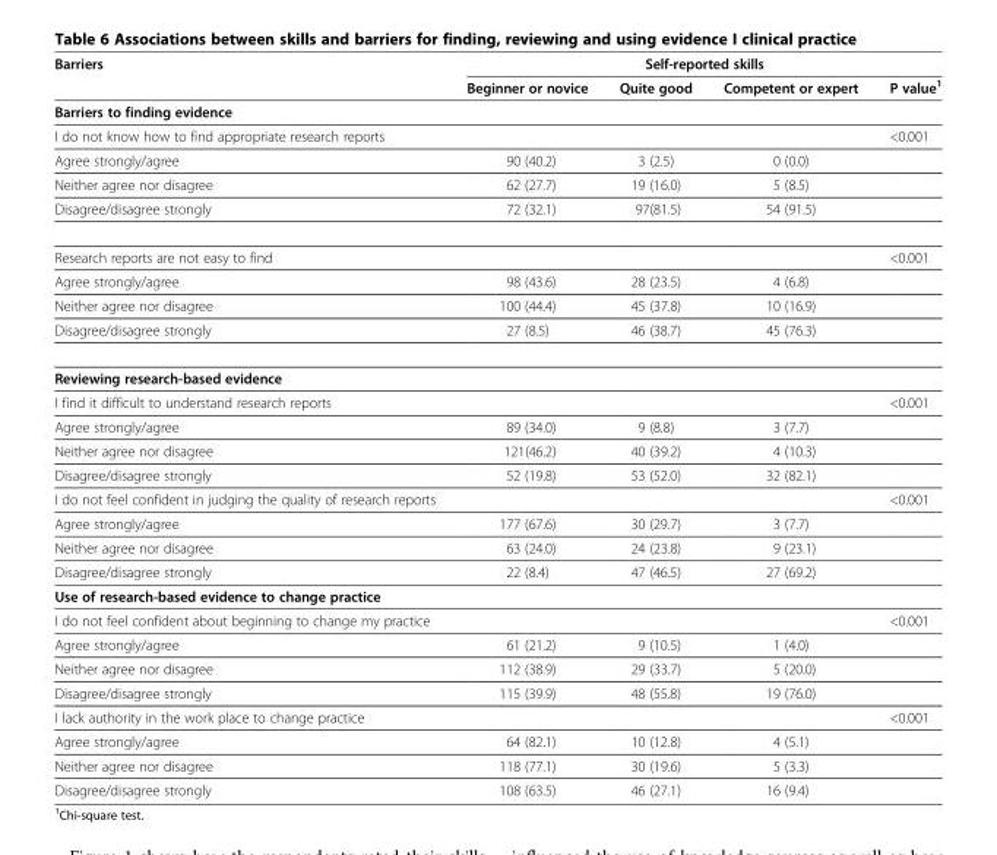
<table><thead><tr><td rowspan="2">Barriers</td><td colspan="4">Self-reported skills</td></tr><tr><td>Beginner or novice</td><td>Quite good</td><td>Competent or expert</td><td>P value<sup>1</sup></td></tr></thead><tbody><tr><td colspan="5">Barriers to finding evidence</td></tr><tr><td>I do not know how to find appropriate research reports</td><td></td><td></td><td></td><td>&lt;0.001</td></tr><tr><td>Agree strongly/agree</td><td>90 (40.2)</td><td>3 (2.5)</td><td>0 (0.0)</td><td></td></tr><tr><td>Neither agree nor disagree</td><td>62 (27.7)</td><td>19 (16.0)</td><td>5 (8.5)</td><td></td></tr><tr><td>Disagree/disagree strongly</td><td>72 (32.1)</td><td>97(81.5)</td><td>54 (91.5)</td><td></td></tr><tr><td>Research reports are not easy to find</td><td></td><td></td><td></td><td>&lt;0.001</td></tr><tr><td>Agree strongly/agree</td><td>98 (43.6)</td><td>28 (23.5)</td><td>4 (6.8)</td><td></td></tr><tr><td>Neither agree nor disagree</td><td>100 (44.4)</td><td>45 (37.8)</td><td>10 (16.9)</td><td></td></tr><tr><td>Disagree/disagree strongly</td><td>27 (8.5)</td><td>46 (38.7)</td><td>45 (76.3)</td><td></td></tr><tr><td colspan="5">Reviewing research-based evidence</td></tr><tr><td>I find it difficult to understand research reports</td><td></td><td></td><td></td><td>&lt;0.001</td></tr><tr><td>Agree strongly/agree</td><td>89 (34.0)</td><td>9 (8.8)</td><td>3 (7.7)</td><td></td></tr><tr><td>Neither agree nor disagree</td><td>121(46.2)</td><td>40 (39.2)</td><td>4 (10.3)</td><td></td></tr><tr><td>Disagree/disagree strongly</td><td>52 (19.8)</td><td>53 (52.0)</td><td>32 (82.1)</td><td></td></tr><tr><td>I do not feel confident in judging the quality of research reports</td><td></td><td></td><td></td><td>&lt;0.001</td></tr><tr><td>Agree strongly/agree</td><td>177 (67.6)</td><td>30 (29.7)</td><td>3 (7.7)</td><td></td></tr><tr><td>Neither agree nor disagree</td><td>63 (24.0)</td><td>24 (23.8)</td><td>9 (23.1)</td><td></td></tr><tr><td>Disagree/disagree strongly</td><td>22 (8.4)</td><td>47 (46.5)</td><td>27 (69.2)</td><td></td></tr><tr><td colspan="5">Use of research-based evidence to change practice</td></tr><tr><td>I do not feel confident about beginning to change my practice</td><td></td><td></td><td></td><td>&lt;0.001</td></tr><tr><td>Agree strongly/agree</td><td>61 (21.2)</td><td>9 (10.5)</td><td>1 (4.0)</td><td></td></tr><tr><td>Neither agree nor disagree</td><td>112 (38.9)</td><td>29 (33.7)</td><td>5 (20.0)</td><td></td></tr><tr><td>Disagree/disagree strongly</td><td>115 (39.9)</td><td>48 (55.8)</td><td>19 (76.0)</td><td></td></tr><tr><td>I lack authority in the work place to change practice</td><td></td><td></td><td></td><td>&lt;0.001</td></tr><tr><td>Agree strongly/agree</td><td>64 (82.1)</td><td>10 (12.8)</td><td>4 (5.1)</td><td></td></tr><tr><td>Neither agree nor disagree</td><td>118 (77.1)</td><td>30 (19.6)</td><td>5 (3.3)</td><td></td></tr><tr><td>Disagree/disagree strongly</td><td>108 (63.5)</td><td>46 (27.1)</td><td>16 (9.4)</td><td></td></tr></tbody></table>